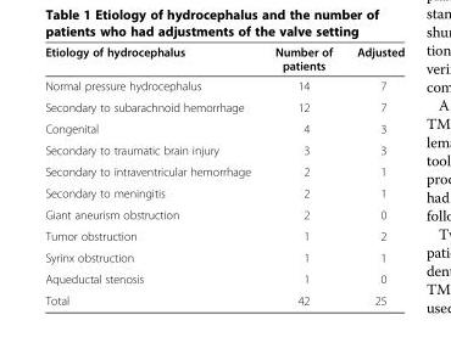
<table><thead><tr><td>Etiology of hydrocephalus</td><td>Number of patients</td><td>Adjusted</td></tr></thead><tbody><tr><td>Normal pressure hydrocephalus</td><td>14</td><td>7</td></tr><tr><td>Secondary to subarachnoid hemorrhage</td><td>12</td><td>7</td></tr><tr><td>Congenital</td><td>4</td><td>3</td></tr><tr><td>Secondary to traumatic brain injury</td><td>3</td><td>3</td></tr><tr><td>Secondary to intraventricular hemorrhage</td><td>2</td><td>1</td></tr><tr><td>Secondary to meningitis</td><td>2</td><td>1</td></tr><tr><td>Giant aneurism obstruction</td><td>2</td><td>0</td></tr><tr><td>Tumor obstruction</td><td>1</td><td>2</td></tr><tr><td>Syrinx obstruction</td><td>1</td><td>1</td></tr><tr><td>Aqueductal stenosis</td><td>1</td><td>0</td></tr><tr><td>Total</td><td>42</td><td>25</td></tr></tbody></table>